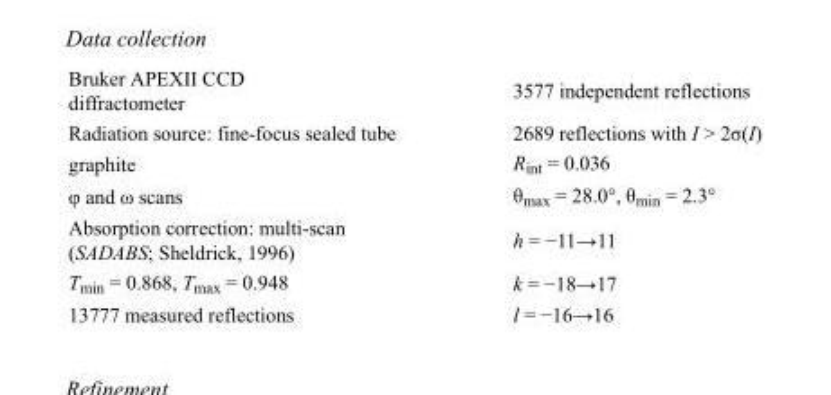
<table><tbody><tr><td>Bruker APEXII CCD diffractometer</td><td>3577 independent reflections</td></tr><tr><td>Radiation source: fine-focus sealed tube</td><td>2689 reflections with I &gt; 2σ(I)</td></tr><tr><td>graphite</td><td>R<sub>int</sub> = 0.036</td></tr><tr><td>φ and ω scans</td><td>θ<sub>max</sub> = 28.0°, θ<sub>min</sub> = 2.3°</td></tr><tr><td>Absorption correction: multi-scan (SADABS; Sheldrick, 1996)</td><td>h = −11→11</td></tr><tr><td>T<sub>min</sub> = 0.868, T<sub>max</sub> = 0.948</td><td>k = −18→17</td></tr><tr><td>13777 measured reflections</td><td>l = −16→16</td></tr></tbody></table>